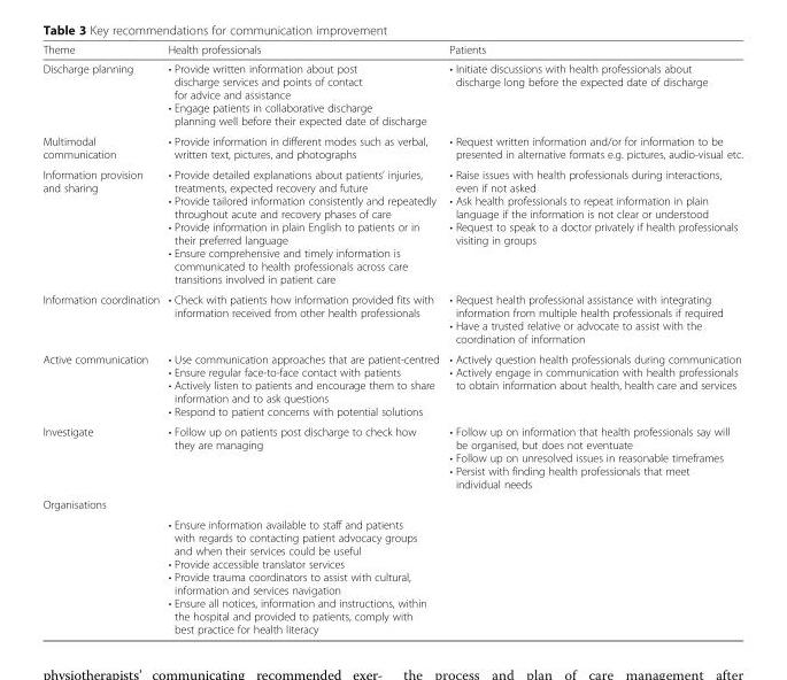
<table><thead><tr><td>Theme</td><td>Health professionals</td><td>Patients</td></tr></thead><tbody><tr><td>Discharge planning</td><td>• Provide written information about post discharge services and points of contact for advice and assistance • Engage patients in collaborative discharge planning well before their expected date of discharge</td><td>• Initiate discussions with health professionals about discharge long before the expected date of discharge</td></tr><tr><td>Multimodal communication</td><td>• Provide information in different modes such as verbal, written text, pictures, and photographs</td><td>• Request written information and/or for information to be presented in alternative formats e.g. pictures, audio-visual etc.</td></tr><tr><td>Information provision and sharing</td><td>• Provide detailed explanations about patients’ injuries, treatments, expected recovery and future • Provide tailored information consistently and repeatedly throughout acute and recovery phases of care • Provide information in plain English to patients or in their preferred language • Ensure comprehensive and timely information is communicated to health professionals across care transitions involved in patient care</td><td>• Raise issues with health professionals during interactions, even if not asked • Ask health professionals to repeat information in plain language if the information is not clear or understood • Request to speak to a doctor privately if health professionals visiting in groups</td></tr><tr><td>Information coordination</td><td>• Check with patients how information provided fits with information received from other health professionals</td><td>• Request health professional assistance with integrating information from multiple health professionals if required • Have a trusted relative or advocate to assist with the coordination of information</td></tr><tr><td>Active communication</td><td>• Use communication approaches that are patient-centred • Ensure regular face-to-face contact with patients • Actively listen to patients and encourage them to share information and to ask questions • Respond to patient concerns with potential solutions</td><td>• Actively question health professionals during communication • Actively engage in communication with health professionals to obtain information about health, health care and services</td></tr><tr><td>Investigate</td><td>• Follow up on patients post discharge to check how they are managing</td><td>• Follow up on information that health professionals say will be organised, but does not eventuate • Follow up on unresolved issues in reasonable timeframes • Persist with finding health professionals that meet individual needs</td></tr><tr><td colspan="3">Organisations</td></tr><tr><td></td><td colspan="2">• Ensure information available to staff and patients with regards to contacting patient advocacy groups and when their services could be useful • Provide accessible translator services • Provide trauma coordinators to assist with cultural, information and services navigation • Ensure all notices, information and instructions, within the hospital and provided to patients, comply with best practice for health literacy</td></tr></tbody></table>